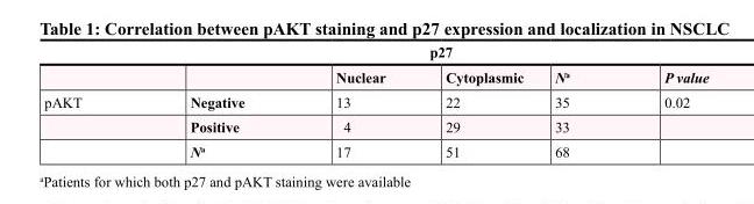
<table><thead><tr><td colspan="6">p27</td></tr><tr><td></td><td></td><td>Nuclear</td><td>Cytoplasmic</td><td>N<sup>a</sup></td><td>P value</td></tr></thead><tbody><tr><td rowspan="3">pAKT</td><td>Negative</td><td>13</td><td>22</td><td>35</td><td>0.02</td></tr><tr><td>Positive</td><td>4</td><td>29</td><td>33</td><td></td></tr><tr><td>N<sup>a</sup></td><td>17</td><td>51</td><td>68</td><td></td></tr></tbody></table>